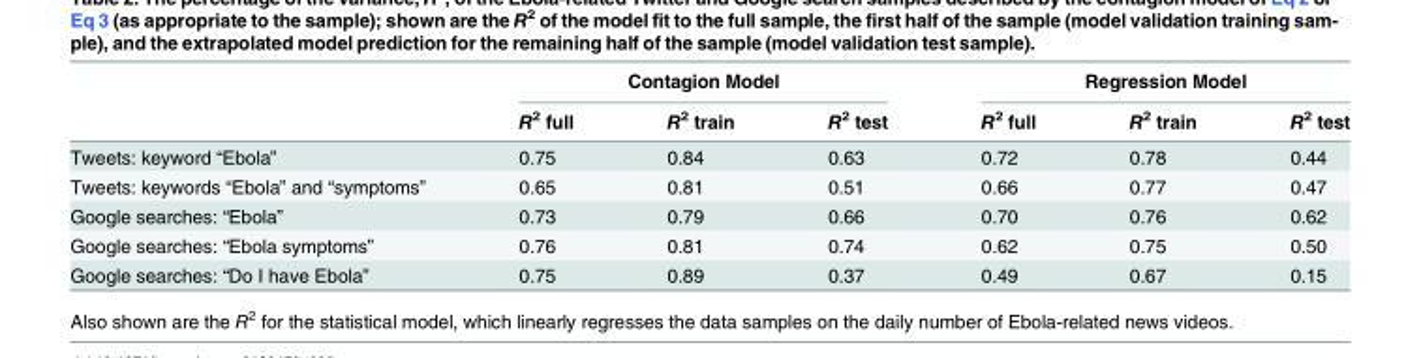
<table><thead><tr><td rowspan="2"></td><td colspan="3">Contagion Model</td><td colspan="3">Regression Model</td></tr><tr><td>R<sup>2</sup> full</td><td>R<sup>2</sup> train</td><td>R<sup>2</sup> test</td><td>R<sup>2</sup> full</td><td>R<sup>2</sup> train</td><td>R<sup>2</sup> test</td></tr></thead><tbody><tr><td>Tweets: keyword “Ebola”</td><td>0.75</td><td>0.84</td><td>0.63</td><td>0.72</td><td>0.78</td><td>0.44</td></tr><tr><td>Tweets: keywords “Ebola” and “symptoms”</td><td>0.65</td><td>0.81</td><td>0.51</td><td>0.66</td><td>0.77</td><td>0.47</td></tr><tr><td>Google searches: “Ebola”</td><td>0.73</td><td>0.79</td><td>0.66</td><td>0.70</td><td>0.76</td><td>0.62</td></tr><tr><td>Google searches: “Ebola symptoms”</td><td>0.76</td><td>0.81</td><td>0.74</td><td>0.62</td><td>0.75</td><td>0.50</td></tr><tr><td>Google searches: “Do I have Ebola”</td><td>0.75</td><td>0.89</td><td>0.37</td><td>0.49</td><td>0.67</td><td>0.15</td></tr></tbody></table>